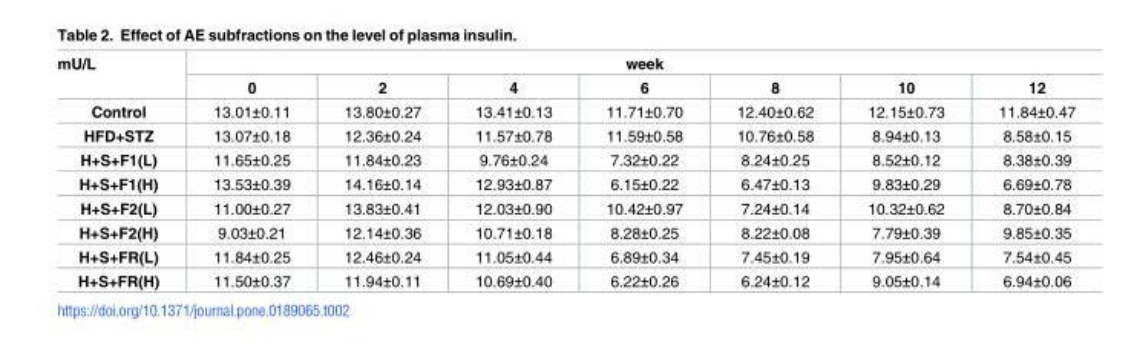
<table><thead><tr><td rowspan="2">mU/L</td><td colspan="7">week</td></tr><tr><td>0</td><td>2</td><td>4</td><td>6</td><td>8</td><td>10</td><td>12</td></tr></thead><tbody><tr><td>Control</td><td>13.01±0.11</td><td>13.80±0.27</td><td>13.41±0.13</td><td>11.71±0.70</td><td>12.40±0.62</td><td>12.15±0.73</td><td>11.84±0.47</td></tr><tr><td>HFD+STZ</td><td>13.07±0.18</td><td>12.36±0.24</td><td>11.57±0.78</td><td>11.59±0.58</td><td>10.76±0.58</td><td>8.94±0.13</td><td>8.58±0.15</td></tr><tr><td>H+S+F1(L)</td><td>11.65±0.25</td><td>11.84±0.23</td><td>9.76±0.24</td><td>7.32±0.22</td><td>8.24±0.25</td><td>8.52±0.12</td><td>8.38±0.39</td></tr><tr><td>H+S+F1(H)</td><td>13.53±0.39</td><td>14.16±0.14</td><td>12.93±0.87</td><td>6.15±0.22</td><td>6.47±0.13</td><td>9.83±0.29</td><td>6.69±0.78</td></tr><tr><td>H+S+F2(L)</td><td>11.00±0.27</td><td>13.83±0.41</td><td>12.03±0.90</td><td>10.42±0.97</td><td>7.24±0.14</td><td>10.32±0.62</td><td>8.70±0.84</td></tr><tr><td>H+S+F2(H)</td><td>9.03±0.21</td><td>12.14±0.36</td><td>10.71±0.18</td><td>8.28±0.25</td><td>8.22±0.08</td><td>7.79±0.39</td><td>9.85±0.35</td></tr><tr><td>H+S+FR(L)</td><td>11.84±0.25</td><td>12.46±0.24</td><td>11.05±0.44</td><td>6.89±0.34</td><td>7.45±0.19</td><td>7.95±0.64</td><td>7.54±0.45</td></tr><tr><td>H+S+FR(H)</td><td>11.50±0.37</td><td>11.94±0.11</td><td>10.69±0.40</td><td>6.22±0.26</td><td>6.24±0.12</td><td>9.05±0.14</td><td>6.94±0.06</td></tr></tbody></table>